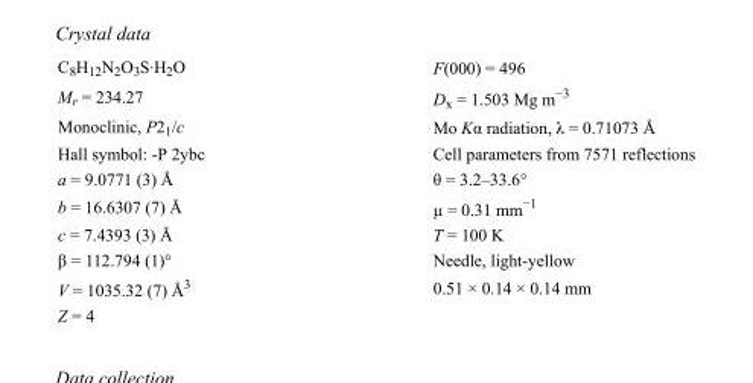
<table><tbody><tr><td>C<sub>8</sub>H<sub>12</sub>N<sub>2</sub>O<sub>3</sub>S·H<sub>2</sub>O</td><td>F(000) = 496</td></tr><tr><td>M<sub>r</sub> = 234.27</td><td>D<sub>x</sub> = 1.503 Mg m<sup>−3</sup></td></tr><tr><td>Monoclinic, P2<sub>1</sub>/c</td><td>Mo Kα radiation, λ = 0.71073 Å</td></tr><tr><td>Hall symbol: -P 2ybc</td><td>Cell parameters from 7571 reflections</td></tr><tr><td>a = 9.0771 (3) Å</td><td>θ = 3.2–33.6°</td></tr><tr><td>b = 16.6307 (7) Å</td><td>µ = 0.31 mm<sup>−1</sup></td></tr><tr><td>c = 7.4393 (3) Å</td><td>T = 100 K</td></tr><tr><td>β = 112.794 (1)°</td><td>Needle, light-yellow</td></tr><tr><td>V = 1035.32 (7) Å<sup>3</sup></td><td>0.51 × 0.14 × 0.14 mm</td></tr><tr><td>Z = 4</td><td></td></tr></tbody></table>